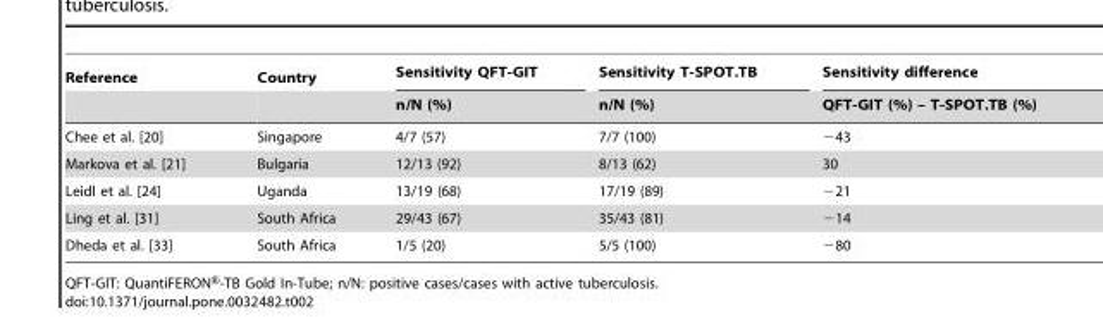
<table><thead><tr><td rowspan="2">Reference</td><td rowspan="2">Country</td><td rowspan="2">Sensitivity QFT-GIT n/N (%)</td><td rowspan="2">Sensitivity T-SPOT.TB n/N (%)</td><td rowspan="2">Sensitivity difference QFT-GIT (%) – T-SPOT.TB (%)</td></tr><tr></tr></thead><tbody><tr><td>Chee et al. [20]</td><td>Singapore</td><td>4/7 (57)</td><td>7/7 (100)</td><td>−43</td></tr><tr><td>Markova et al. [21]</td><td>Bulgaria</td><td>12/13 (92)</td><td>8/13 (62)</td><td>30</td></tr><tr><td>Leidl et al. [24]</td><td>Uganda</td><td>13/19 (68)</td><td>17/19 (89)</td><td>−21</td></tr><tr><td>Ling et al. [31]</td><td>South Africa</td><td>29/43 (67)</td><td>35/43 (81)</td><td>−14</td></tr><tr><td>Dheda et al. [33]</td><td>South Africa</td><td>1/5 (20)</td><td>5/5 (100)</td><td>−80</td></tr></tbody></table>